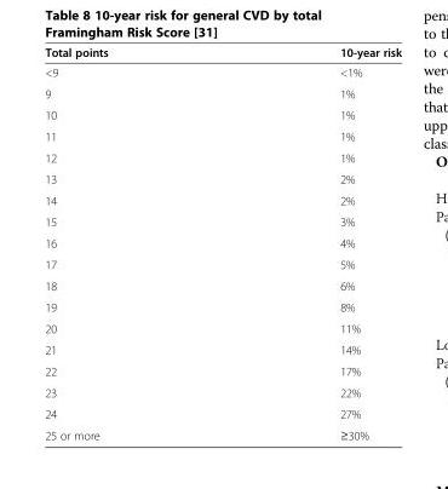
<table><thead><tr><td>Total points</td><td>10-year risk</td></tr></thead><tbody><tr><td>&lt;9</td><td>&lt;1%</td></tr><tr><td>9</td><td>1%</td></tr><tr><td>10</td><td>1%</td></tr><tr><td>11</td><td>1%</td></tr><tr><td>12</td><td>1%</td></tr><tr><td>13</td><td>2%</td></tr><tr><td>14</td><td>2%</td></tr><tr><td>15</td><td>3%</td></tr><tr><td>16</td><td>4%</td></tr><tr><td>17</td><td>5%</td></tr><tr><td>18</td><td>6%</td></tr><tr><td>19</td><td>8%</td></tr><tr><td>20</td><td>11%</td></tr><tr><td>21</td><td>14%</td></tr><tr><td>22</td><td>17%</td></tr><tr><td>23</td><td>22%</td></tr><tr><td>24</td><td>27%</td></tr><tr><td>25 or more</td><td>≥30%</td></tr></tbody></table>